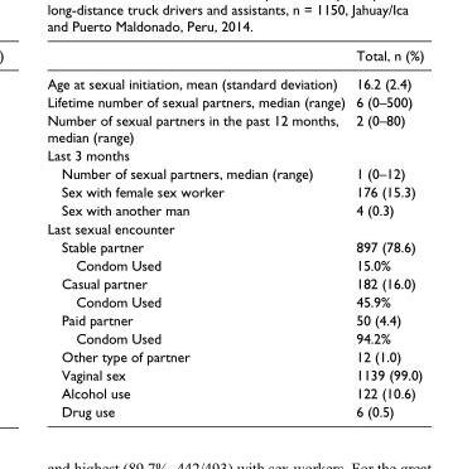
<table><thead><tr><td></td><td>Total, n (%)</td></tr></thead><tbody><tr><td>Age at sexual initiation, mean (standard deviation)</td><td>16.2 (2.4)</td></tr><tr><td>Lifetime number of sexual partners, median (range)</td><td>6 (0–500)</td></tr><tr><td>Number of sexual partners in the past 12 months, median (range)</td><td>2 (0–80)</td></tr><tr><td colspan="2">Last 3 months</td></tr><tr><td>Number of sexual partners, median (range)</td><td>1 (0–12)</td></tr><tr><td>Sex with female sex worker</td><td>176 (15.3)</td></tr><tr><td>Sex with another man</td><td>4 (0.3)</td></tr><tr><td colspan="2">Last sexual encounter</td></tr><tr><td>Stable partner</td><td>897 (78.6)</td></tr><tr><td>Condom Used</td><td>15.0%</td></tr><tr><td>Casual partner</td><td>182 (16.0)</td></tr><tr><td>Condom Used</td><td>45.9%</td></tr><tr><td>Paid partner</td><td>50 (4.4)</td></tr><tr><td>Condom Used</td><td>94.2%</td></tr><tr><td>Other type of partner</td><td>12 (1.0)</td></tr><tr><td>Vaginal sex</td><td>1139 (99.0)</td></tr><tr><td>Alcohol use</td><td>122 (10.6)</td></tr><tr><td>Drug use</td><td>6 (0.5)</td></tr></tbody></table>